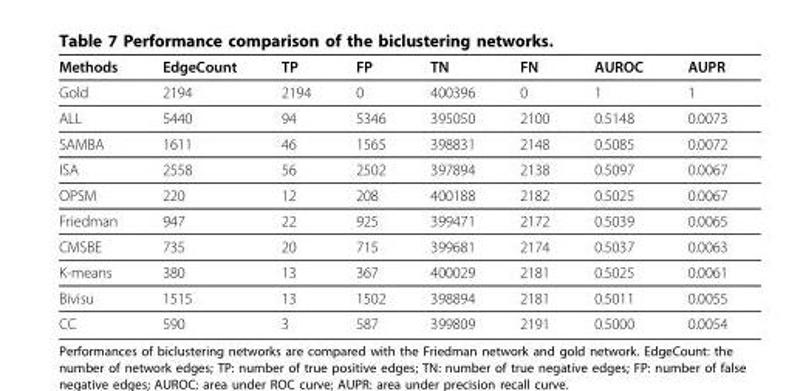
<table><thead><tr><td>Methods</td><td>EdgeCount</td><td>TP</td><td>FP</td><td>TN</td><td>FN</td><td>AUROC</td><td>AUPR</td></tr></thead><tbody><tr><td>Gold</td><td>2194</td><td>2194</td><td>0</td><td>400396</td><td>0</td><td>1</td><td>1</td></tr><tr><td>ALL</td><td>5440</td><td>94</td><td>5346</td><td>395050</td><td>2100</td><td>0.5148</td><td>0.0073</td></tr><tr><td>SAMBA</td><td>1611</td><td>46</td><td>1565</td><td>398831</td><td>2148</td><td>0.5085</td><td>0.0072</td></tr><tr><td>ISA</td><td>2558</td><td>56</td><td>2502</td><td>397894</td><td>2138</td><td>0.5097</td><td>0.0067</td></tr><tr><td>OPSM</td><td>220</td><td>12</td><td>208</td><td>400188</td><td>2182</td><td>0.5025</td><td>0.0067</td></tr><tr><td>Friedman</td><td>947</td><td>22</td><td>925</td><td>399471</td><td>2172</td><td>0.5039</td><td>0.0065</td></tr><tr><td>CMSBE</td><td>735</td><td>20</td><td>715</td><td>399681</td><td>2174</td><td>0.5037</td><td>0.0063</td></tr><tr><td>K-means</td><td>380</td><td>13</td><td>367</td><td>400029</td><td>2181</td><td>0.5025</td><td>0.0061</td></tr><tr><td>Bivisu</td><td>1515</td><td>13</td><td>1502</td><td>398894</td><td>2181</td><td>0.5011</td><td>0.0055</td></tr><tr><td>CC</td><td>590</td><td>3</td><td>587</td><td>399809</td><td>2191</td><td>0.5000</td><td>0.0054</td></tr></tbody></table>